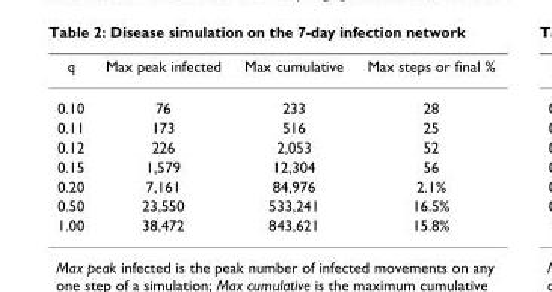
<table><thead><tr><td>q</td><td>Max peak infected</td><td>Max cumulative</td><td>Max steps or final %</td></tr></thead><tbody><tr><td>0.10</td><td>76</td><td>233</td><td>28</td></tr><tr><td>0.11</td><td>173</td><td>516</td><td>25</td></tr><tr><td>0.12</td><td>226</td><td>2,053</td><td>52</td></tr><tr><td>0.15</td><td>1,579</td><td>12,304</td><td>56</td></tr><tr><td>0.20</td><td>7,161</td><td>84,976</td><td>2.1%</td></tr><tr><td>0.50</td><td>23,550</td><td>533,241</td><td>16.5%</td></tr><tr><td>1.00</td><td>38,472</td><td>843,621</td><td>15.8%</td></tr></tbody></table>